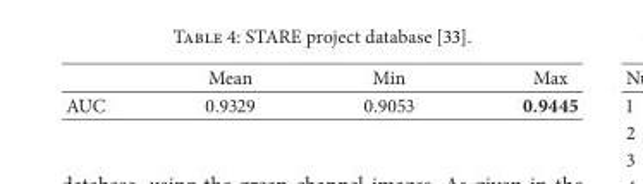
<table><thead><tr><td></td><td>Mean</td><td>Min</td><td>Max</td></tr></thead><tbody><tr><td>AUC</td><td>0.9329</td><td>0.9053</td><td>0.9445</td></tr></tbody></table>